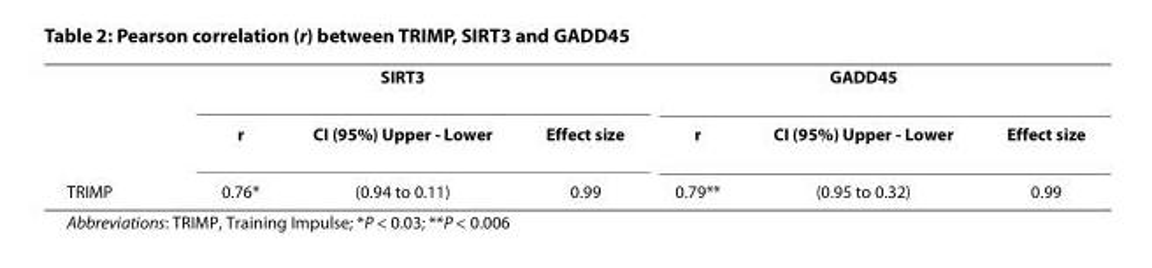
<table><thead><tr><td></td><td></td><td>SIRT3</td><td></td><td></td><td>GADD45</td><td></td></tr></thead><tbody><tr><td></td><td>r</td><td>CI (95%) Upper - Lower</td><td>Effect size</td><td>r</td><td>CI (95%) Upper - Lower</td><td>Effect size</td></tr><tr><td>TRIMP</td><td>0.76*</td><td>(0.94 to 0.11)</td><td>0.99</td><td>0.79**</td><td>(0.95 to 0.32)</td><td>0.99</td></tr></tbody></table>